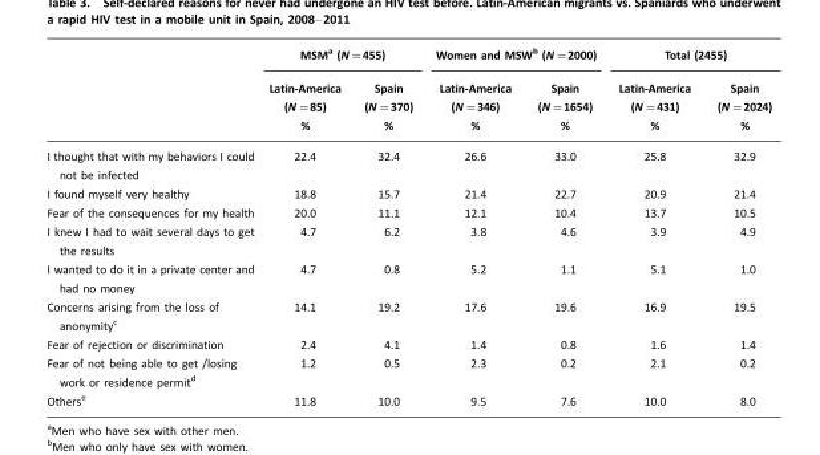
<table><thead><tr><td rowspan="3"></td><td colspan="2">MSM<sup>a</sup> (N=455)</td><td colspan="2">Women and MSW<sup>b</sup> (N=2000)</td><td colspan="2">Total (2455)</td></tr><tr><td rowspan="2">Latin-America (N=85) %</td><td rowspan="2">Spain (N=370) %</td><td rowspan="2">Latin-America (N=346) %</td><td rowspan="2">Spain (N=1654) %</td><td rowspan="2">Latin-America (N=431) %</td><td rowspan="2">Spain (N=2024) %</td></tr><tr></tr></thead><tbody><tr><td>I thought that with my behaviors I could not be infected</td><td>22.4</td><td>32.4</td><td>26.6</td><td>33.0</td><td>25.8</td><td>32.9</td></tr><tr><td>I found myself very healthy</td><td>18.8</td><td>15.7</td><td>21.4</td><td>22.7</td><td>20.9</td><td>21.4</td></tr><tr><td>Fear of the consequences for my health</td><td>20.0</td><td>11.1</td><td>12.1</td><td>10.4</td><td>13.7</td><td>10.5</td></tr><tr><td>I knew I had to wait several days to get the results</td><td>4.7</td><td>6.2</td><td>3.8</td><td>4.6</td><td>3.9</td><td>4.9</td></tr><tr><td>I wanted to do it in a private center and had no money</td><td>4.7</td><td>0.8</td><td>5.2</td><td>1.1</td><td>5.1</td><td>1.0</td></tr><tr><td>Concerns arising from the loss of anonymity<sup>c</sup></td><td>14.1</td><td>19.2</td><td>17.6</td><td>19.6</td><td>16.9</td><td>19.5</td></tr><tr><td>Fear of rejection or discrimination</td><td>2.4</td><td>4.1</td><td>1.4</td><td>0.8</td><td>1.6</td><td>1.4</td></tr><tr><td>Fear of not being able to get /losing work or residence permit<sup>d</sup></td><td>1.2</td><td>0.5</td><td>2.3</td><td>0.2</td><td>2.1</td><td>0.2</td></tr><tr><td>Others<sup>e</sup></td><td>11.8</td><td>10.0</td><td>9.5</td><td>7.6</td><td>10.0</td><td>8.0</td></tr></tbody></table>